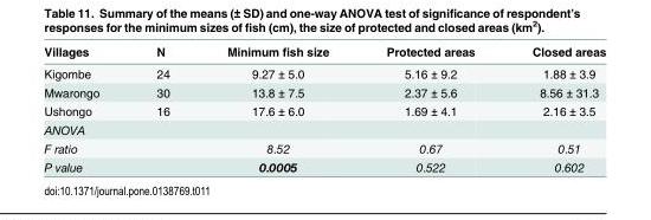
<table><thead><tr><td>Villages</td><td>N</td><td>Minimum fish size</td><td>Protected areas</td><td>Closed areas</td></tr></thead><tbody><tr><td>Kigombe</td><td>24</td><td>9.27 ± 5.0</td><td>5.16 ± 9.2</td><td>1.88 ± 3.9</td></tr><tr><td>Mwarongo</td><td>30</td><td>13.8 ± 7.5</td><td>2.37 ± 5.6</td><td>8.56 ± 31.3</td></tr><tr><td>Ushongo</td><td>16</td><td>17.6 ± 6.0</td><td>1.69 ± 4.1</td><td>2.16 ± 3.5</td></tr><tr><td colspan="5">ANOVA</td></tr><tr><td>F ratio</td><td></td><td>8.52</td><td>0.67</td><td>0.51</td></tr><tr><td>P value</td><td></td><td>0.0005</td><td>0.522</td><td>0.602</td></tr></tbody></table>